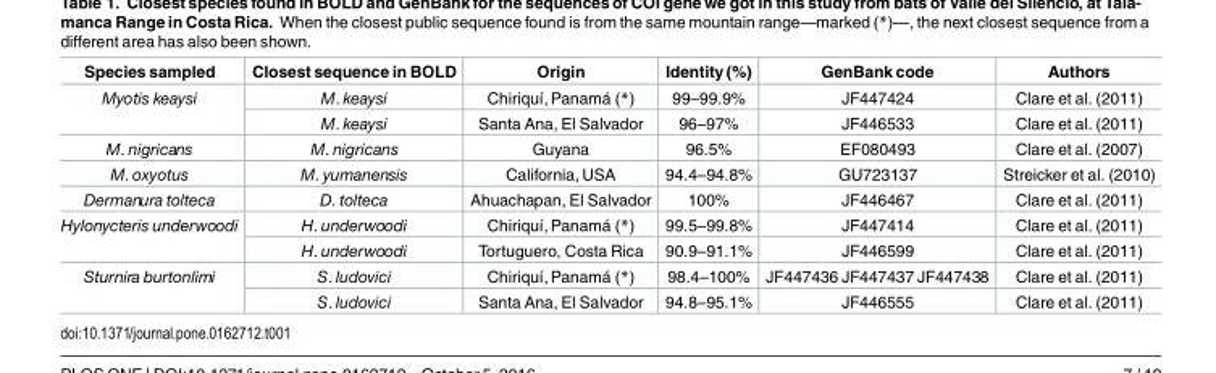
<table><thead><tr><td>Species sampled</td><td>Closest sequence in BOLD</td><td>Origin</td><td>Identity (%)</td><td>GenBank code</td><td>Authors</td></tr></thead><tbody><tr><td rowspan="2">Myotis keaysi</td><td>M. keaysi</td><td>Chiriquí, Panamá (*)</td><td>99–99.9%</td><td>JF447424</td><td>Clare et al. (2011)</td></tr><tr><td>M. keaysi</td><td>Santa Ana, El Salvador</td><td>96–97%</td><td>JF446533</td><td>Clare et al. (2011)</td></tr><tr><td>M. nigricans</td><td>M. nigricans</td><td>Guyana</td><td>96.5%</td><td>EF080493</td><td>Clare et al. (2007)</td></tr><tr><td>M. oxyotus</td><td>M. yumanensis</td><td>California, USA</td><td>94.4–94.8%</td><td>GU723137</td><td>Streicker et al. (2010)</td></tr><tr><td>Dermanura tolteca</td><td>D. tolteca</td><td>Ahuachapan, El Salvador</td><td>100%</td><td>JF446467</td><td>Clare et al. (2011)</td></tr><tr><td rowspan="2">Hylonycteris underwoodi</td><td>H. underwoodi</td><td>Chiriquí, Panamá (*)</td><td>99.5–99.8%</td><td>JF447414</td><td>Clare et al. (2011)</td></tr><tr><td>H. underwoodi</td><td>Tortuguero, Costa Rica</td><td>90.9–91.1%</td><td>JF446599</td><td>Clare et al. (2011)</td></tr><tr><td rowspan="2">Sturnira burtonlimi</td><td>S. ludovici</td><td>Chiriquí, Panamá (*)</td><td>98.4–100%</td><td>JF447436 JF447437 JF447438</td><td>Clare et al. (2011)</td></tr><tr><td>S. ludovici</td><td>Santa Ana, El Salvador</td><td>94.8–95.1%</td><td>JF446555</td><td>Clare et al. (2011)</td></tr></tbody></table>